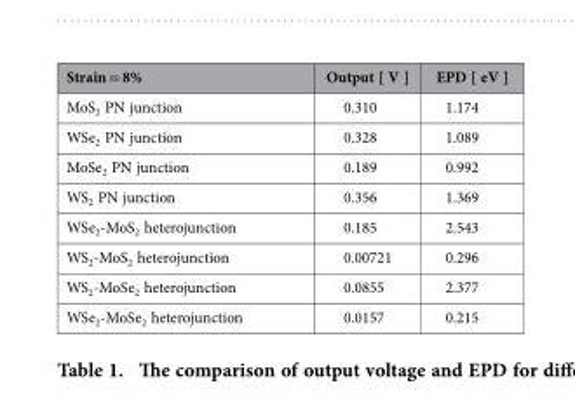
<table><thead><tr><td>Strain = 8%</td><td>Output [ V ]</td><td>EPD [ eV ]</td></tr></thead><tbody><tr><td>MoS<sub>2</sub> PN junction</td><td>0.310</td><td>1.174</td></tr><tr><td>WSe<sub>2</sub> PN junction</td><td>0.328</td><td>1.089</td></tr><tr><td>MoSe<sub>2</sub> PN junction</td><td>0.189</td><td>0.992</td></tr><tr><td>WS<sub>2</sub> PN junction</td><td>0.356</td><td>1.369</td></tr><tr><td>WSe<sub>2</sub>-MoS<sub>2</sub> heterojunction</td><td>0.185</td><td>2.543</td></tr><tr><td>WS<sub>2</sub>-MoS<sub>2</sub> heterojunction</td><td>0.00721</td><td>0.296</td></tr><tr><td>WS<sub>2</sub>-MoSe<sub>2</sub> heterojunction</td><td>0.0855</td><td>2.377</td></tr><tr><td>WSe<sub>2</sub>-MoSe<sub>2</sub> heterojunction</td><td>0.0157</td><td>0.215</td></tr></tbody></table>